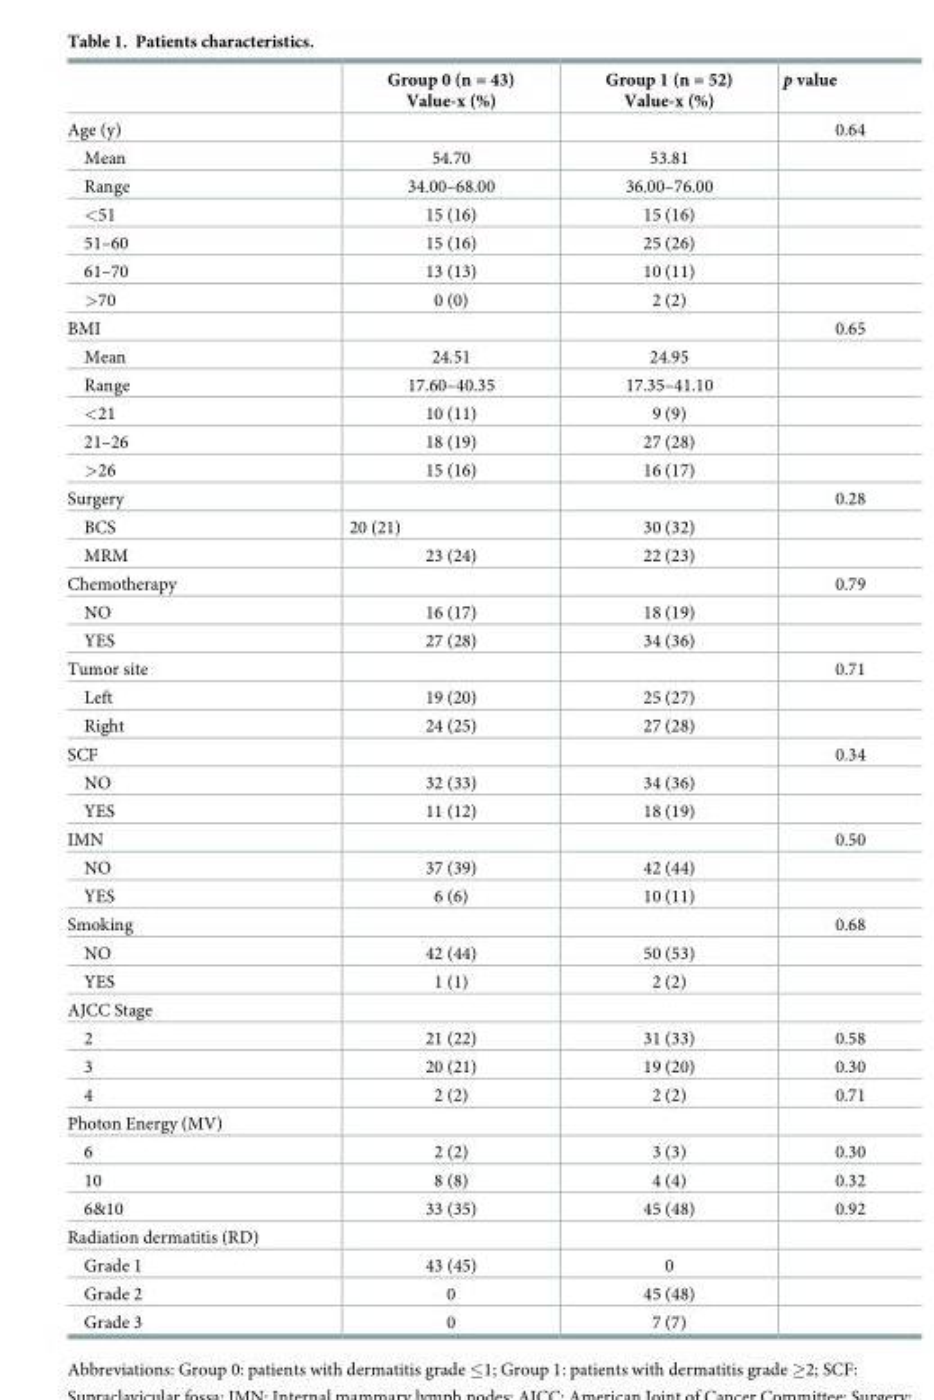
<table><thead><tr><td></td><td>Group 0 (n = 43) Value-x (%)</td><td>Group 1 (n = 52) Value-x (%)</td><td>p value</td></tr></thead><tbody><tr><td>Age (y)</td><td></td><td></td><td>0.64</td></tr><tr><td>Mean</td><td>54.70</td><td>53.81</td><td></td></tr><tr><td>Range</td><td>34.00–68.00</td><td>36.00–76.00</td><td></td></tr><tr><td>&lt;51</td><td>15 (16)</td><td>15 (16)</td><td></td></tr><tr><td>51–60</td><td>15 (16)</td><td>25 (26)</td><td></td></tr><tr><td>61–70</td><td>13 (13)</td><td>10 (11)</td><td></td></tr><tr><td>&gt;70</td><td>0 (0)</td><td>2 (2)</td><td></td></tr><tr><td>BMI</td><td></td><td></td><td>0.65</td></tr><tr><td>Mean</td><td>24.51</td><td>24.95</td><td></td></tr><tr><td>Range</td><td>17.60–40.35</td><td>17.35–41.10</td><td></td></tr><tr><td>&lt;21</td><td>10 (11)</td><td>9 (9)</td><td></td></tr><tr><td>21–26</td><td>18 (19)</td><td>27 (28)</td><td></td></tr><tr><td>&gt;26</td><td>15 (16)</td><td>16 (17)</td><td></td></tr><tr><td>Surgery</td><td></td><td></td><td>0.28</td></tr><tr><td>BCS</td><td>20 (21)</td><td>30 (32)</td><td></td></tr><tr><td>MRM</td><td>23 (24)</td><td>22 (23)</td><td></td></tr><tr><td>Chemotherapy</td><td></td><td></td><td>0.79</td></tr><tr><td>NO</td><td>16 (17)</td><td>18 (19)</td><td></td></tr><tr><td>YES</td><td>27 (28)</td><td>34 (36)</td><td></td></tr><tr><td>Tumor site</td><td></td><td></td><td>0.71</td></tr><tr><td>Left</td><td>19 (20)</td><td>25 (27)</td><td></td></tr><tr><td>Right</td><td>24 (25)</td><td>27 (28)</td><td></td></tr><tr><td>SCF</td><td></td><td></td><td>0.34</td></tr><tr><td>NO</td><td>32 (33)</td><td>34 (36)</td><td></td></tr><tr><td>YES</td><td>11 (12)</td><td>18 (19)</td><td></td></tr><tr><td>IMN</td><td></td><td></td><td>0.50</td></tr><tr><td>NO</td><td>37 (39)</td><td>42 (44)</td><td></td></tr><tr><td>YES</td><td>6 (6)</td><td>10 (11)</td><td></td></tr><tr><td>Smoking</td><td></td><td></td><td>0.68</td></tr><tr><td>NO</td><td>42 (44)</td><td>50 (53)</td><td></td></tr><tr><td>YES</td><td>1 (1)</td><td>2 (2)</td><td></td></tr><tr><td colspan="4">AJCC Stage</td></tr><tr><td>2</td><td>21 (22)</td><td>31 (33)</td><td>0.58</td></tr><tr><td>3</td><td>20 (21)</td><td>19 (20)</td><td>0.30</td></tr><tr><td>4</td><td>2 (2)</td><td>2 (2)</td><td>0.71</td></tr><tr><td colspan="4">Photon Energy (MV)</td></tr><tr><td>6</td><td>2 (2)</td><td>3 (3)</td><td>0.30</td></tr><tr><td>10</td><td>8 (8)</td><td>4 (4)</td><td>0.32</td></tr><tr><td>6&amp;10</td><td>33 (35)</td><td>45 (48)</td><td>0.92</td></tr><tr><td colspan="4">Radiation dermatitis (RD)</td></tr><tr><td>Grade 1</td><td>43 (45)</td><td>0</td><td></td></tr><tr><td>Grade 2</td><td>0</td><td>45 (48)</td><td></td></tr><tr><td>Grade 3</td><td>0</td><td>7 (7)</td><td></td></tr></tbody></table>